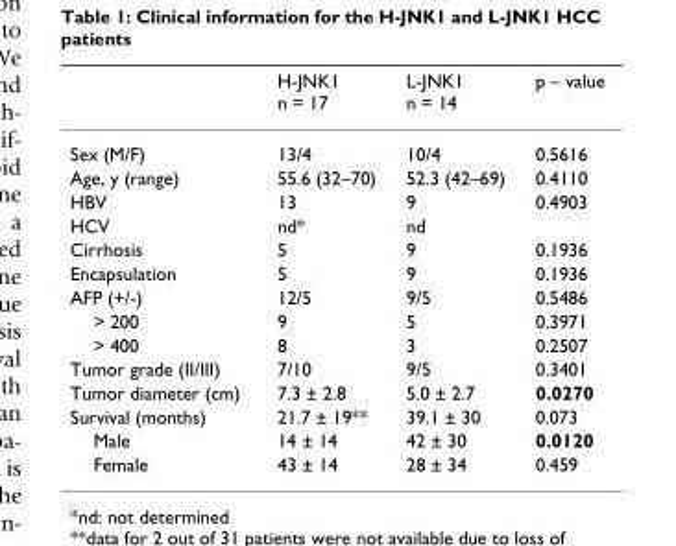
<table><thead><tr><td></td><td>H-JNK1 n = 17</td><td>L-JNK1 n = 14</td><td>p – value</td></tr></thead><tbody><tr><td>Sex (M/F)</td><td>13/4</td><td>10/4</td><td>0.5616</td></tr><tr><td>Age, y (range)</td><td>55.6 (32–70)</td><td>52.3 (42–69)</td><td>0.4110</td></tr><tr><td>HBV</td><td>13</td><td>9</td><td>0.4903</td></tr><tr><td>HCV</td><td>nd*</td><td>nd</td><td></td></tr><tr><td>Cirrhosis</td><td>5</td><td>9</td><td>0.1936</td></tr><tr><td>Encapsulation</td><td>5</td><td>9</td><td>0.1936</td></tr><tr><td>AFP (+/-)</td><td>12/5</td><td>9/5</td><td>0.5486</td></tr><tr><td>&gt; 200</td><td>9</td><td>5</td><td>0.3971</td></tr><tr><td>&gt; 400</td><td>8</td><td>3</td><td>0.2507</td></tr><tr><td>Tumor grade (II/III)</td><td>7/10</td><td>9/5</td><td>0.3401</td></tr><tr><td>Tumor diameter (cm)</td><td>7.3 ± 2.8</td><td>5.0 ± 2.7</td><td>0.0270</td></tr><tr><td>Survival (months)</td><td>21.7 ± 19**</td><td>39.1 ± 30</td><td>0.073</td></tr><tr><td>Male</td><td>14 ± 14</td><td>42 ± 30</td><td>0.0120</td></tr><tr><td>Female</td><td>43 ± 14</td><td>28 ± 34</td><td>0.459</td></tr></tbody></table>